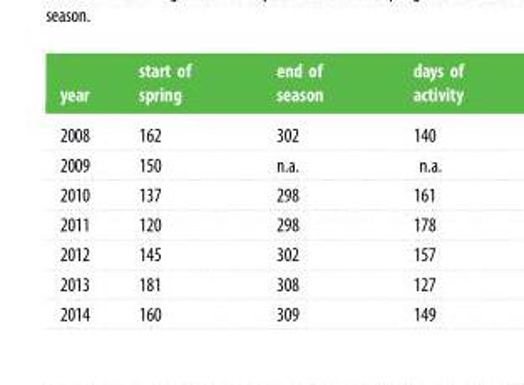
<table><thead><tr><td>year</td><td>start of spring</td><td>end of season</td><td>days of activity</td></tr></thead><tbody><tr><td>2008</td><td>162</td><td>302</td><td>140</td></tr><tr><td>2009</td><td>150</td><td>n.a.</td><td>n.a.</td></tr><tr><td>2010</td><td>137</td><td>298</td><td>161</td></tr><tr><td>2011</td><td>120</td><td>298</td><td>178</td></tr><tr><td>2012</td><td>145</td><td>302</td><td>157</td></tr><tr><td>2013</td><td>181</td><td>308</td><td>127</td></tr><tr><td>2014</td><td>160</td><td>309</td><td>149</td></tr></tbody></table>